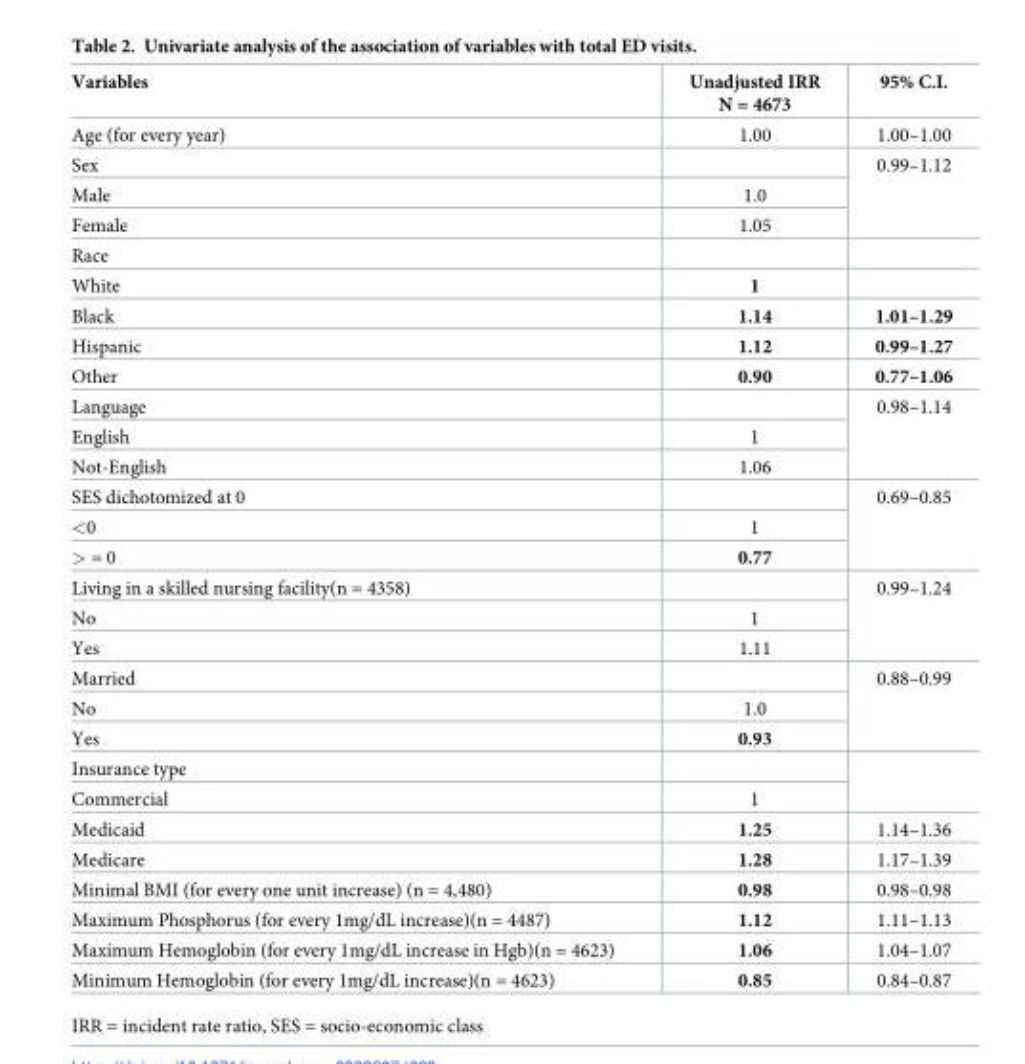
<table><thead><tr><td>Variables</td><td>Unadjusted IRR N = 4673</td><td>95% C.I.</td></tr></thead><tbody><tr><td>Age (for every year)</td><td>1.00</td><td>1.00–1.00</td></tr><tr><td colspan="2">Sex</td><td rowspan="3">0.99–1.12</td></tr><tr><td>Male</td><td>1.0</td></tr><tr><td>Female</td><td>1.05</td></tr><tr><td colspan="3">Race</td></tr><tr><td>White</td><td>1</td><td></td></tr><tr><td>Black</td><td>1.14</td><td>1.01–1.29</td></tr><tr><td>Hispanic</td><td>1.12</td><td>0.99–1.27</td></tr><tr><td>Other</td><td>0.90</td><td>0.77–1.06</td></tr><tr><td colspan="2">Language</td><td rowspan="3">0.98–1.14</td></tr><tr><td>English</td><td>1</td></tr><tr><td>Not-English</td><td>1.06</td></tr><tr><td colspan="2">SES dichotomized at 0</td><td rowspan="3">0.69–0.85</td></tr><tr><td>&lt;0</td><td>1</td></tr><tr><td>&gt; = 0</td><td>0.77</td></tr><tr><td colspan="2">Living in a skilled nursing facility(n = 4358)</td><td rowspan="3">0.99–1.24</td></tr><tr><td>No</td><td>1</td></tr><tr><td>Yes</td><td>1.11</td></tr><tr><td colspan="2">Married</td><td rowspan="3">0.88–0.99</td></tr><tr><td>No</td><td>1.0</td></tr><tr><td>Yes</td><td>0.93</td></tr><tr><td colspan="2">Insurance type</td><td rowspan="2"></td></tr><tr><td>Commercial</td><td>1</td></tr><tr><td>Medicaid</td><td>1.25</td><td>1.14–1.36</td></tr><tr><td>Medicare</td><td>1.28</td><td>1.17–1.39</td></tr><tr><td>Minimal BMI (for every one unit increase) (n = 4,480)</td><td>0.98</td><td>0.98–0.98</td></tr><tr><td>Maximum Phosphorus (for every 1mg/dL increase)(n = 4487)</td><td>1.12</td><td>1.11–1.13</td></tr><tr><td>Maximum Hemoglobin (for every 1mg/dL increase in Hgb)(n = 4623)</td><td>1.06</td><td>1.04–1.07</td></tr><tr><td>Minimum Hemoglobin (for every 1mg/dL increase)(n = 4623)</td><td>0.85</td><td>0.84–0.87</td></tr></tbody></table>